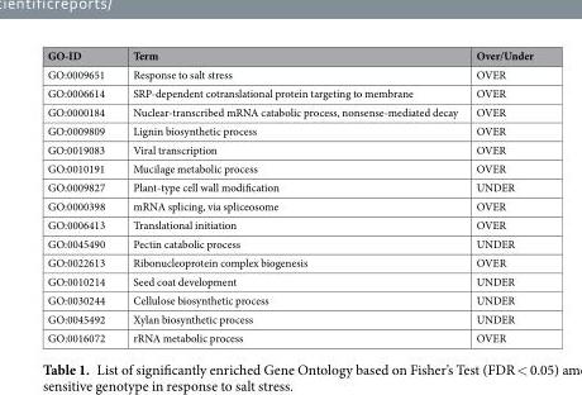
<table><thead><tr><td>GO-ID</td><td>Term</td><td>Over/Under</td></tr></thead><tbody><tr><td>GO:0009651</td><td>Response to salt stress</td><td>OVER</td></tr><tr><td>GO:0006614</td><td>SRP-dependent cotranslational protein targeting to membrane</td><td>OVER</td></tr><tr><td>GO:0000184</td><td>Nuclear-transcribed mRNA catabolic process, nonsense-mediated decay</td><td>OVER</td></tr><tr><td>GO:0009809</td><td>Lignin biosynthetic process</td><td>OVER</td></tr><tr><td>GO:0019083</td><td>Viral transcription</td><td>OVER</td></tr><tr><td>GO:0010191</td><td>Mucilage metabolic process</td><td>OVER</td></tr><tr><td>GO:0009827</td><td>Plant-type cell wall modification</td><td>UNDER</td></tr><tr><td>GO:0000398</td><td>mRNA splicing, via spliceosome</td><td>OVER</td></tr><tr><td>GO:0006413</td><td>Translational initiation</td><td>OVER</td></tr><tr><td>GO:0045490</td><td>Pectin catabolic process</td><td>UNDER</td></tr><tr><td>GO:0022613</td><td>Ribonucleoprotein complex biogenesis</td><td>OVER</td></tr><tr><td>GO:0010214</td><td>Seed coat development</td><td>UNDER</td></tr><tr><td>GO:0030244</td><td>Cellulose biosynthetic process</td><td>UNDER</td></tr><tr><td>GO:0045492</td><td>Xylan biosynthetic process</td><td>UNDER</td></tr><tr><td>GO:0016072</td><td>rRNA metabolic process</td><td>OVER</td></tr></tbody></table>